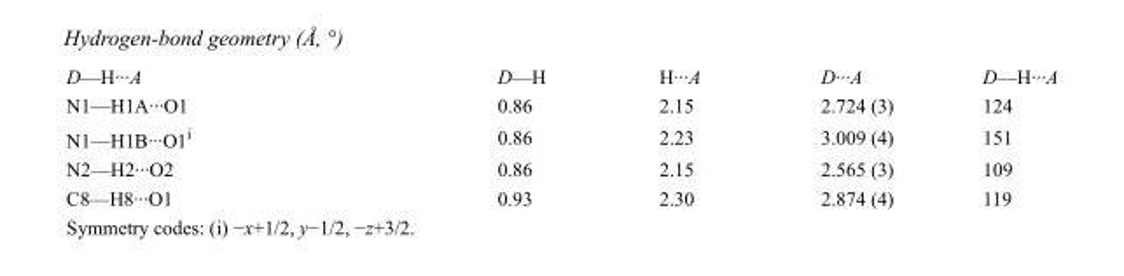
<table><tbody><tr><td>D—H···A</td><td>D—H</td><td>H···A</td><td>D···A</td><td>D—H···A</td></tr><tr><td>N1—H1A···O1</td><td>0.86</td><td>2.15</td><td>2.724 (3)</td><td>124</td></tr><tr><td>N1—H1B···O1<sup>i</sup></td><td>0.86</td><td>2.23</td><td>3.009 (4)</td><td>151</td></tr><tr><td>N2—H2···O2</td><td>0.86</td><td>2.15</td><td>2.565 (3)</td><td>109</td></tr><tr><td>C8—H8···O1</td><td>0.93</td><td>2.30</td><td>2.874 (4)</td><td>119</td></tr></tbody></table>